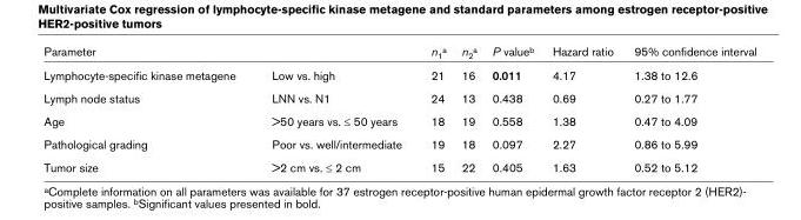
<table><thead><tr><td>Parameter</td><td></td><td>n<sub>1</sub><sup>a</sup></td><td>n<sub>2</sub><sup>a</sup></td><td>P value<sup>b</sup></td><td>Hazard ratio</td><td>95% confidence interval</td></tr></thead><tbody><tr><td>Lymphocyte-specific kinase metagene</td><td>Low vs. high</td><td>21</td><td>16</td><td>0.011</td><td>4.17</td><td>1.38 to 12.6</td></tr><tr><td>Lymph node status</td><td>LNN vs. N1</td><td>24</td><td>13</td><td>0.438</td><td>0.69</td><td>0.27 to 1.77</td></tr><tr><td>Age</td><td>&gt;50 years vs. ≤ 50 years</td><td>18</td><td>19</td><td>0.558</td><td>1.38</td><td>0.47 to 4.09</td></tr><tr><td>Pathological grading</td><td>Poor vs. well/intermediate</td><td>19</td><td>18</td><td>0.097</td><td>2.27</td><td>0.86 to 5.99</td></tr><tr><td>Tumor size</td><td>&gt;2 cm vs. ≤ 2 cm</td><td>15</td><td>22</td><td>0.405</td><td>1.63</td><td>0.52 to 5.12</td></tr></tbody></table>